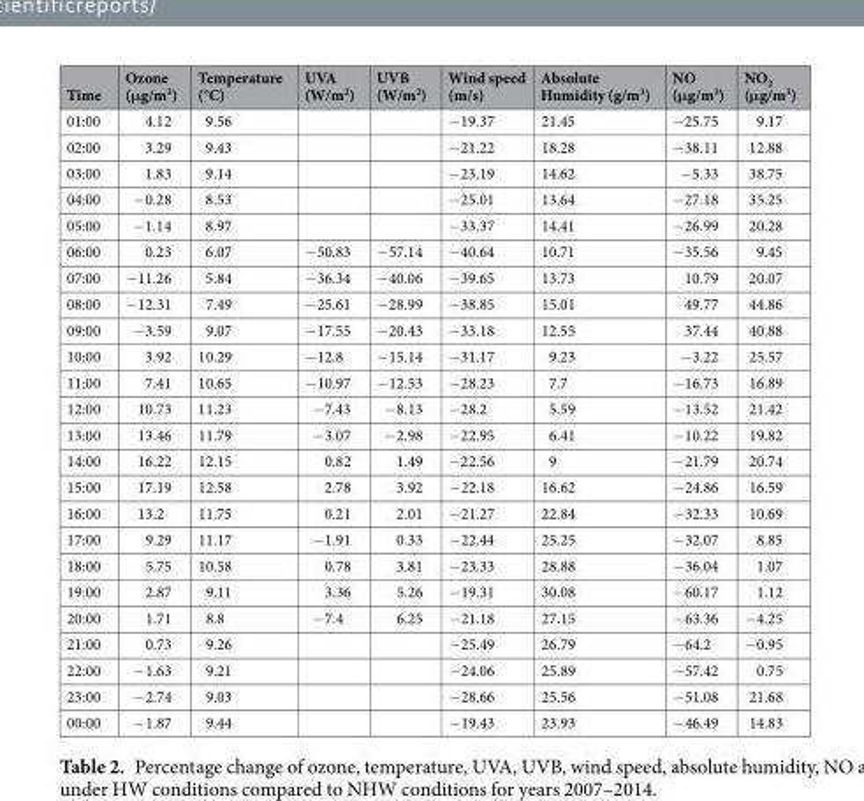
<table><thead><tr><td>Time</td><td>Ozone (μg/m<sup>3</sup>)</td><td>Temperature (°C)</td><td>UVA (W/m<sup>2</sup>)</td><td>UVB (W/m<sup>2</sup>)</td><td>Wind speed (m/s)</td><td>Absolute Humidity (g/m<sup>3</sup>)</td><td>NO (μg/m<sup>3</sup>)</td><td>NO<sub>2</sub> (μg/m<sup>3</sup>)</td></tr></thead><tbody><tr><td>01:00</td><td>4.12</td><td>9.56</td><td></td><td></td><td>−19.37</td><td>21.45</td><td>−25.75</td><td>9.17</td></tr><tr><td>02:00</td><td>3.29</td><td>9.43</td><td></td><td></td><td>−21.22</td><td>18.28</td><td>−38.11</td><td>12.88</td></tr><tr><td>03:00</td><td>1.83</td><td>9.14</td><td></td><td></td><td>−23.19</td><td>14.62</td><td>−5.33</td><td>38.75</td></tr><tr><td>04:00</td><td>−0.28</td><td>8.53</td><td></td><td></td><td>−25.01</td><td>13.64</td><td>−27.18</td><td>35.25</td></tr><tr><td>05:00</td><td>−1.14</td><td>8.97</td><td></td><td></td><td>−33.37</td><td>14.41</td><td>−26.99</td><td>20.28</td></tr><tr><td>06:00</td><td>0.23</td><td>6.07</td><td>−50.83</td><td>−57.14</td><td>−40.64</td><td>10.71</td><td>−35.56</td><td>9.45</td></tr><tr><td>07:00</td><td>−11.26</td><td>5.84</td><td>−36.34</td><td>−40.06</td><td>−39.65</td><td>13.73</td><td>10.79</td><td>20.07</td></tr><tr><td>08:00</td><td>−12.31</td><td>7.49</td><td>−25.61</td><td>−28.99</td><td>−38.85</td><td>15.01</td><td>49.77</td><td>44.86</td></tr><tr><td>09:00</td><td>−3.59</td><td>9.07</td><td>−17.55</td><td>−20.43</td><td>−33.18</td><td>12.55</td><td>37.44</td><td>40.88</td></tr><tr><td>10:00</td><td>3.92</td><td>10.29</td><td>−12.8</td><td>−15.14</td><td>−31.17</td><td>9.23</td><td>−3.22</td><td>25.57</td></tr><tr><td>11:00</td><td>7.41</td><td>10.65</td><td>−10.97</td><td>−12.53</td><td>−28.23</td><td>7.7</td><td>−16.73</td><td>16.89</td></tr><tr><td>12:00</td><td>10.73</td><td>11.23</td><td>−7.43</td><td>−8.13</td><td>−28.2</td><td>5.59</td><td>−13.52</td><td>21.42</td></tr><tr><td>13:00</td><td>13.46</td><td>11.79</td><td>−3.07</td><td>−2.98</td><td>−22.95</td><td>6.41</td><td>−10.22</td><td>19.82</td></tr><tr><td>14:00</td><td>16.22</td><td>12.15</td><td>0.82</td><td>1.49</td><td>−22.56</td><td>9</td><td>−21.79</td><td>20.74</td></tr><tr><td>15:00</td><td>17.19</td><td>12.58</td><td>2.78</td><td>3.92</td><td>−22.18</td><td>16.62</td><td>−24.86</td><td>16.59</td></tr><tr><td>16:00</td><td>13.2</td><td>11.75</td><td>0.21</td><td>2.01</td><td>−21.27</td><td>22.84</td><td>−32.33</td><td>10.69</td></tr><tr><td>17:00</td><td>9.29</td><td>11.17</td><td>−1.91</td><td>0.33</td><td>−22.44</td><td>25.25</td><td>−32.07</td><td>8.85</td></tr><tr><td>18:00</td><td>5.75</td><td>10.58</td><td>0.78</td><td>3.81</td><td>−23.33</td><td>28.88</td><td>−36.04</td><td>1.07</td></tr><tr><td>19:00</td><td>2.87</td><td>9.11</td><td>3.36</td><td>5.26</td><td>−19.31</td><td>30.08</td><td>−60.17</td><td>1.12</td></tr><tr><td>20:00</td><td>1.71</td><td>8.8</td><td>−7.4</td><td>6.25</td><td>−21.18</td><td>27.15</td><td>−63.36</td><td>−4.25</td></tr><tr><td>21:00</td><td>0.73</td><td>9.26</td><td></td><td></td><td>−25.49</td><td>26.79</td><td>−64.2</td><td>−0.95</td></tr><tr><td>22:00</td><td>−1.63</td><td>9.21</td><td></td><td></td><td>−24.06</td><td>25.89</td><td>−57.42</td><td>0.75</td></tr><tr><td>23:00</td><td>−2.74</td><td>9.03</td><td></td><td></td><td>−28.66</td><td>25.56</td><td>−51.08</td><td>21.68</td></tr><tr><td>00:00</td><td>−1.87</td><td>9.44</td><td></td><td></td><td>−19.43</td><td>23.93</td><td>−46.49</td><td>14.83</td></tr></tbody></table>